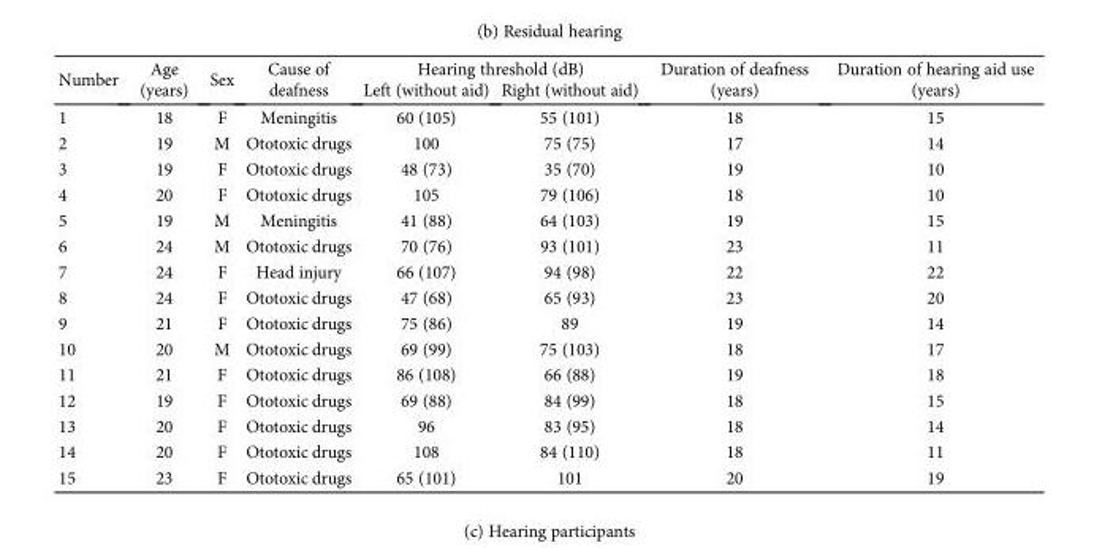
<table><thead><tr><td rowspan="2">Number</td><td rowspan="2">Age (years)</td><td rowspan="2">Sex</td><td rowspan="2">Cause of deafness</td><td colspan="2">Hearing threshold (dB)</td><td rowspan="2">Duration of deafness (years)</td><td rowspan="2">Duration of hearing aid use (years)</td></tr><tr><td>Left (without aid)</td><td>Right (without aid)</td></tr></thead><tbody><tr><td>1</td><td>18</td><td>F</td><td>Meningitis</td><td>60 (105)</td><td>55 (101)</td><td>18</td><td>15</td></tr><tr><td>2</td><td>19</td><td>M</td><td>Ototoxic drugs</td><td>100</td><td>75 (75)</td><td>17</td><td>14</td></tr><tr><td>3</td><td>19</td><td>F</td><td>Ototoxic drugs</td><td>48 (73)</td><td>35 (70)</td><td>19</td><td>10</td></tr><tr><td>4</td><td>20</td><td>F</td><td>Ototoxic drugs</td><td>105</td><td>79 (106)</td><td>18</td><td>10</td></tr><tr><td>5</td><td>19</td><td>M</td><td>Meningitis</td><td>41 (88)</td><td>64 (103)</td><td>19</td><td>15</td></tr><tr><td>6</td><td>24</td><td>M</td><td>Ototoxic drugs</td><td>70 (76)</td><td>93 (101)</td><td>23</td><td>11</td></tr><tr><td>7</td><td>24</td><td>F</td><td>Head injury</td><td>66 (107)</td><td>94 (98)</td><td>22</td><td>22</td></tr><tr><td>8</td><td>24</td><td>F</td><td>Ototoxic drugs</td><td>47 (68)</td><td>65 (93)</td><td>23</td><td>20</td></tr><tr><td>9</td><td>21</td><td>F</td><td>Ototoxic drugs</td><td>75 (86)</td><td>89</td><td>19</td><td>14</td></tr><tr><td>10</td><td>20</td><td>M</td><td>Ototoxic drugs</td><td>69 (99)</td><td>75 (103)</td><td>18</td><td>17</td></tr><tr><td>11</td><td>21</td><td>F</td><td>Ototoxic drugs</td><td>86 (108)</td><td>66 (88)</td><td>19</td><td>18</td></tr><tr><td>12</td><td>19</td><td>F</td><td>Ototoxic drugs</td><td>69 (88)</td><td>84 (99)</td><td>18</td><td>15</td></tr><tr><td>13</td><td>20</td><td>F</td><td>Ototoxic drugs</td><td>96</td><td>83 (95)</td><td>18</td><td>14</td></tr><tr><td>14</td><td>20</td><td>F</td><td>Ototoxic drugs</td><td>108</td><td>84 (110)</td><td>18</td><td>11</td></tr><tr><td>15</td><td>23</td><td>F</td><td>Ototoxic drugs</td><td>65 (101)</td><td>101</td><td>20</td><td>19</td></tr></tbody></table>